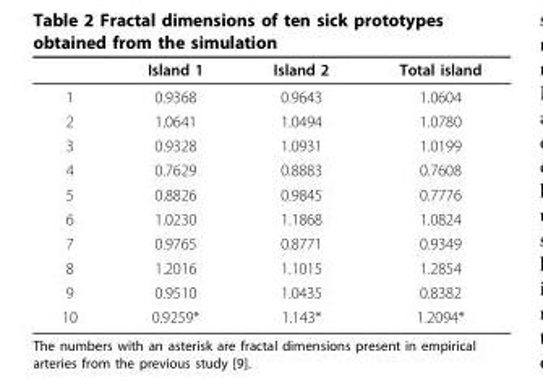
<table><thead><tr><td></td><td>Island 1</td><td>Island 2</td><td>Total island</td></tr></thead><tbody><tr><td>1</td><td>0.9368</td><td>0.9643</td><td>1.0604</td></tr><tr><td>2</td><td>1.0641</td><td>1.0494</td><td>1.0780</td></tr><tr><td>3</td><td>0.9328</td><td>1.0931</td><td>1.0199</td></tr><tr><td>4</td><td>0.7629</td><td>0.8883</td><td>0.7608</td></tr><tr><td>5</td><td>0.8826</td><td>0.9845</td><td>0.7776</td></tr><tr><td>6</td><td>1.0230</td><td>1.1868</td><td>1.0824</td></tr><tr><td>7</td><td>0.9765</td><td>0.8771</td><td>0.9349</td></tr><tr><td>8</td><td>1.2016</td><td>1.1015</td><td>1.2854</td></tr><tr><td>9</td><td>0.9510</td><td>1.0435</td><td>0.8382</td></tr><tr><td>10</td><td>0.9259*</td><td>1.143*</td><td>1.2094*</td></tr></tbody></table>